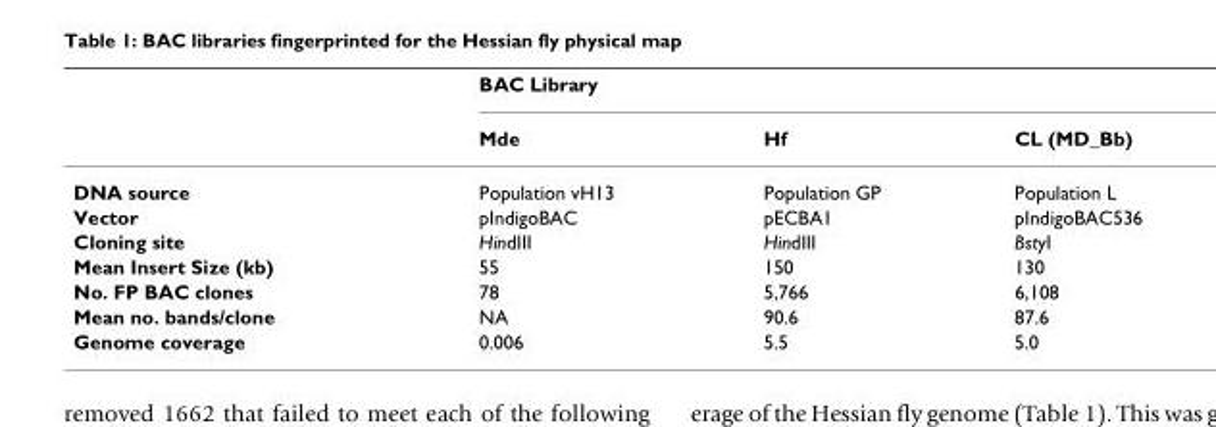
<table><thead><tr><td rowspan="2"></td><td colspan="3">BAC Library</td></tr><tr><td>Mde</td><td>Hf</td><td>CL (MD_Bb)</td></tr></thead><tbody><tr><td>DNA source</td><td>Population vH13</td><td>Population GP</td><td>Population L</td></tr><tr><td>Vector</td><td>pIndigoBAC</td><td>pECBA1</td><td>pIndigoBAC536</td></tr><tr><td>Cloning site</td><td>HindIII</td><td>HindIII</td><td>BstyI</td></tr><tr><td>Mean Insert Size (kb)</td><td>55</td><td>150</td><td>130</td></tr><tr><td>No. FP BAC clones</td><td>78</td><td>5,766</td><td>6,108</td></tr><tr><td>Mean no. bands/clone</td><td>NA</td><td>90.6</td><td>87.6</td></tr><tr><td>Genome coverage</td><td>0.006</td><td>5.5</td><td>5.0</td></tr></tbody></table>